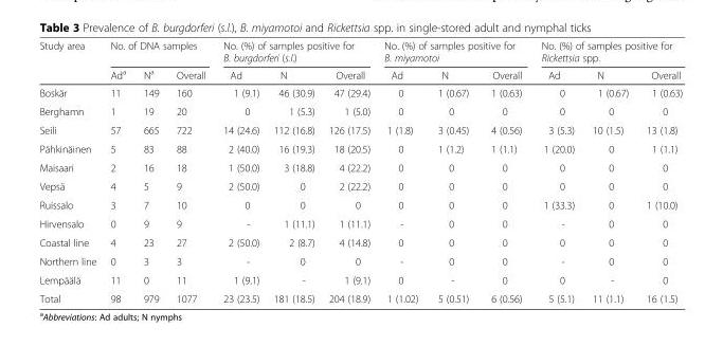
<table><thead><tr><td rowspan="2">Study area</td><td colspan="3">No. of DNA samples</td><td colspan="3">No. (%) of samples positive for B. burgdorferi (s.l.)</td><td colspan="3">No. (%) of samples positive for B. miyamotoi</td><td colspan="3">No. (%) of samples positive for Rickettsia spp.</td></tr><tr><td>Ad<sup>a</sup></td><td>N<sup>a</sup></td><td>Overall</td><td>Ad</td><td>N</td><td>Overall</td><td>Ad</td><td>N</td><td>Overall</td><td>Ad</td><td>N</td><td>Overall</td></tr></thead><tbody><tr><td>Boskär</td><td>11</td><td>149</td><td>160</td><td>1 (9.1)</td><td>46 (30.9)</td><td>47 (29.4)</td><td>0</td><td>1 (0.67)</td><td>1 (0.63)</td><td>0</td><td>1 (0.67)</td><td>1 (0.63)</td></tr><tr><td>Berghamn</td><td>1</td><td>19</td><td>20</td><td>0</td><td>1 (5.3)</td><td>1 (5.0)</td><td>0</td><td>0</td><td>0</td><td>0</td><td>0</td><td>0</td></tr><tr><td>Seili</td><td>57</td><td>665</td><td>722</td><td>14 (24.6)</td><td>112 (16.8)</td><td>126 (17.5)</td><td>1 (1.8)</td><td>3 (0.45)</td><td>4 (0.56)</td><td>3 (5.3)</td><td>10 (1.5)</td><td>13 (1.8)</td></tr><tr><td>Pähkinäinen</td><td>5</td><td>83</td><td>88</td><td>2 (40.0)</td><td>16 (19.3)</td><td>18 (20.5)</td><td>0</td><td>1 (1.2)</td><td>1 (1.1)</td><td>1 (20.0)</td><td>0</td><td>1 (1.1)</td></tr><tr><td>Maisaari</td><td>2</td><td>16</td><td>18</td><td>1 (50.0)</td><td>3 (18.8)</td><td>4 (22.2)</td><td>0</td><td>0</td><td>0</td><td>0</td><td>0</td><td>0</td></tr><tr><td>Vepsä</td><td>4</td><td>5</td><td>9</td><td>2 (50.0)</td><td>0</td><td>2 (22.2)</td><td>0</td><td>0</td><td>0</td><td>0</td><td>0</td><td>0</td></tr><tr><td>Ruissalo</td><td>3</td><td>7</td><td>10</td><td>0</td><td>0</td><td>0</td><td>0</td><td>0</td><td>0</td><td>1 (33.3)</td><td>0</td><td>1 (10.0)</td></tr><tr><td>Hirvensalo</td><td>0</td><td>9</td><td>9</td><td>-</td><td>1 (11.1)</td><td>1 (11.1)</td><td>-</td><td>0</td><td>0</td><td>-</td><td>0</td><td>0</td></tr><tr><td>Coastal line</td><td>4</td><td>23</td><td>27</td><td>2 (50.0)</td><td>2 (8.7)</td><td>4 (14.8)</td><td>0</td><td>0</td><td>0</td><td>0</td><td>0</td><td>0</td></tr><tr><td>Northern line</td><td>0</td><td>3</td><td>3</td><td>-</td><td>0</td><td>0</td><td>-</td><td>0</td><td>0</td><td>-</td><td>0</td><td>0</td></tr><tr><td>Lempäälä</td><td>11</td><td>0</td><td>11</td><td>1 (9.1)</td><td>-</td><td>1 (9.1)</td><td>0</td><td>-</td><td>0</td><td>0</td><td>-</td><td>0</td></tr><tr><td>Total</td><td>98</td><td>979</td><td>1077</td><td>23 (23.5)</td><td>181 (18.5)</td><td>204 (18.9)</td><td>1 (1.02)</td><td>5 (0.51)</td><td>6 (0.56)</td><td>5 (5.1)</td><td>11 (1.1)</td><td>16 (1.5)</td></tr></tbody></table>